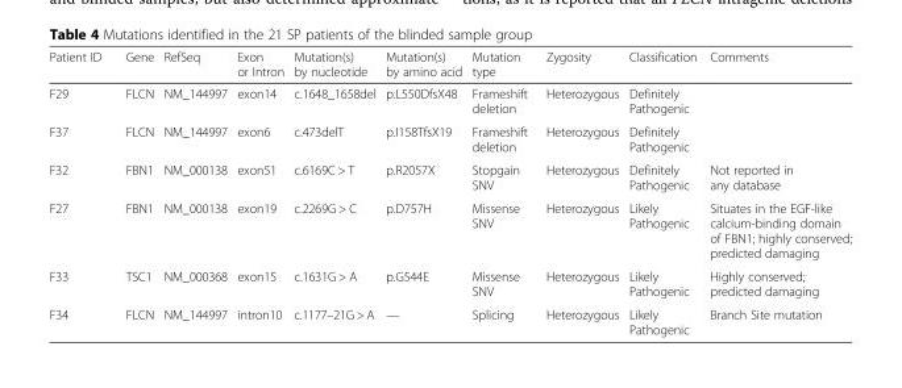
<table><thead><tr><td>Patient ID</td><td>Gene</td><td>RefSeq</td><td>Exon or Intron</td><td>Mutation(s) by nucleotide</td><td>Mutation(s) by amino acid</td><td>Mutation type</td><td>Zygosity</td><td>Classification</td><td>Comments</td></tr></thead><tbody><tr><td>F29</td><td>FLCN</td><td>NM_144997</td><td>exon14</td><td>c.1648_1658del</td><td>p.L550DfsX48</td><td>Frameshift deletion</td><td>Heterozygous</td><td>Definitely Pathogenic</td><td></td></tr><tr><td>F37</td><td>FLCN</td><td>NM_144997</td><td>exon6</td><td>c.473delT</td><td>p.I158TfsX19</td><td>Frameshift deletion</td><td>Heterozygous</td><td>Definitely Pathogenic</td><td></td></tr><tr><td>F32</td><td>FBN1</td><td>NM_000138</td><td>exon51</td><td>c.6169C &gt; T</td><td>p.R2057X</td><td>Stopgain SNV</td><td>Heterozygous</td><td>Definitely Pathogenic</td><td>Not reported in any database</td></tr><tr><td>F27</td><td>FBN1</td><td>NM_000138</td><td>exon19</td><td>c.2269G &gt; C</td><td>p.D757H</td><td>Missense SNV</td><td>Heterozygous</td><td>Likely Pathogenic</td><td>Situates in the EGF-like calcium-binding domain of FBN1; highly conserved; predicted damaging</td></tr><tr><td>F33</td><td>TSC1</td><td>NM_000368</td><td>exon15</td><td>c.1631G &gt; A</td><td>p.G544E</td><td>Missense SNV</td><td>Heterozygous</td><td>Likely Pathogenic</td><td>Highly conserved; predicted damaging</td></tr><tr><td>F34</td><td>FLCN</td><td>NM_144997</td><td>intron10</td><td>c.1177–21G &gt; A</td><td>—</td><td>Splicing</td><td>Heterozygous</td><td>Likely Pathogenic</td><td>Branch Site mutation</td></tr></tbody></table>